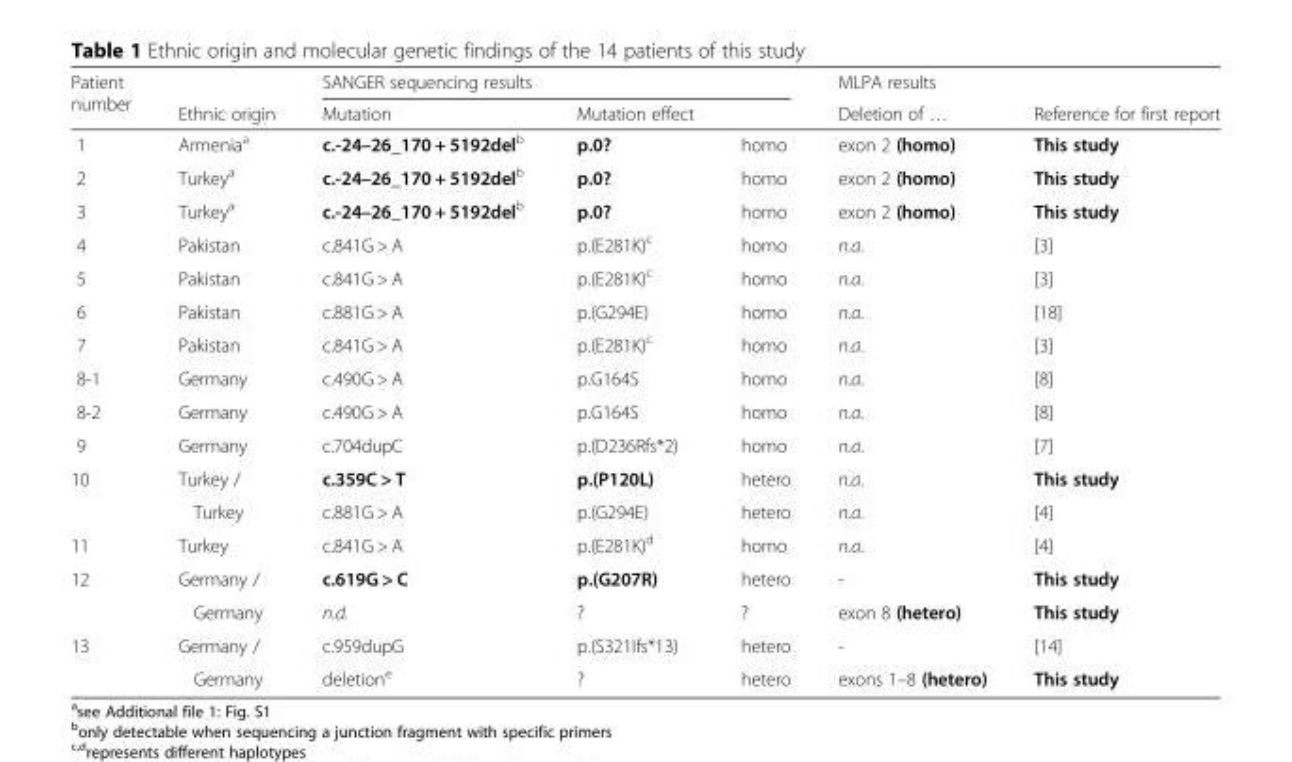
<table><thead><tr><td rowspan="2">Patient number</td><td rowspan="2">Ethnic origin</td><td colspan="3">SANGER sequencing results</td><td rowspan="2">MLPA results Deletion of …</td><td rowspan="2">Reference for first report</td></tr><tr><td>Mutation</td><td>Mutation effect</td><td></td></tr></thead><tbody><tr><td>1</td><td>Armenia<sup>a</sup></td><td>c.-24–26_170 + 5192del<sup>b</sup></td><td>p.0?</td><td>homo</td><td>exon 2 (homo)</td><td>This study</td></tr><tr><td>2</td><td>Turkey<sup>a</sup></td><td>c.-24–26_170 + 5192del<sup>b</sup></td><td>p.0?</td><td>homo</td><td>exon 2 (homo)</td><td>This study</td></tr><tr><td>3</td><td>Turkey<sup>a</sup></td><td>c.-24–26_170 + 5192del<sup>b</sup></td><td>p.0?</td><td>homo</td><td>exon 2 (homo)</td><td>This study</td></tr><tr><td>4</td><td>Pakistan</td><td>c.841G &gt; A</td><td>p.(E281K)<sup>c</sup></td><td>homo</td><td>n.a.</td><td>[3]</td></tr><tr><td>5</td><td>Pakistan</td><td>c.841G &gt; A</td><td>p.(E281K)<sup>c</sup></td><td>homo</td><td>n.a.</td><td>[3]</td></tr><tr><td>6</td><td>Pakistan</td><td>c.881G &gt; A</td><td>p.(G294E)</td><td>homo</td><td>n.a.</td><td>[18]</td></tr><tr><td>7</td><td>Pakistan</td><td>c.841G &gt; A</td><td>p.(E281K)<sup>c</sup></td><td>homo</td><td>n.a.</td><td>[3]</td></tr><tr><td>8-1</td><td>Germany</td><td>c.490G &gt; A</td><td>p.G164S</td><td>homo</td><td>n.a.</td><td>[8]</td></tr><tr><td>8-2</td><td>Germany</td><td>c.490G &gt; A</td><td>p.G164S</td><td>homo</td><td>n.a.</td><td>[8]</td></tr><tr><td>9</td><td>Germany</td><td>c.704dupC</td><td>p.(D236Rfs*2)</td><td>homo</td><td>n.a.</td><td>[7]</td></tr><tr><td rowspan="2">10</td><td>Turkey /</td><td>c.359C &gt; T</td><td>p.(P120L)</td><td>hetero</td><td>n.a.</td><td>This study</td></tr><tr><td>Turkey</td><td>c.881G &gt; A</td><td>p.(G294E)</td><td>hetero</td><td>n.a.</td><td>[4]</td></tr><tr><td>11</td><td>Turkey</td><td>c.841G &gt; A</td><td>p.(E281K)<sup>d</sup></td><td>homo</td><td>n.a.</td><td>[4]</td></tr><tr><td rowspan="2">12</td><td>Germany /</td><td>c.619G &gt; C</td><td>p.(G207R)</td><td>hetero</td><td>-</td><td>This study</td></tr><tr><td>Germany</td><td>n.d.</td><td>?</td><td>?</td><td>exon 8 (hetero)</td><td>This study</td></tr><tr><td rowspan="2">13</td><td>Germany /</td><td>c.959dupG</td><td>p.(S321Ifs*13)</td><td>hetero</td><td>-</td><td>[14]</td></tr><tr><td>Germany</td><td>deletion<sup>e</sup></td><td>?</td><td>hetero</td><td>exons 1–8 (hetero)</td><td>This study</td></tr></tbody></table>